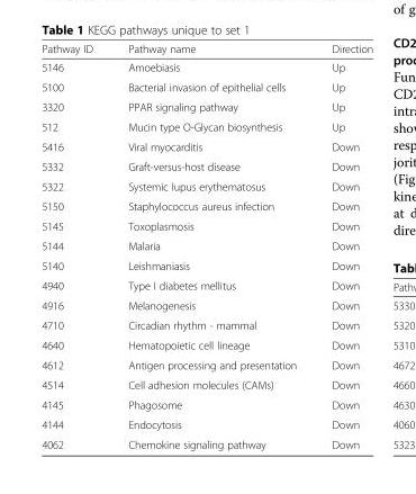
<table><thead><tr><td>Pathway ID</td><td>Pathway name</td><td>Direction</td></tr></thead><tbody><tr><td>5146</td><td>Amoebiasis</td><td>Up</td></tr><tr><td>5100</td><td>Bacterial invasion of epithelial cells</td><td>Up</td></tr><tr><td>3320</td><td>PPAR signaling pathway</td><td>Up</td></tr><tr><td>512</td><td>Mucin type O-Glycan biosynthesis</td><td>Up</td></tr><tr><td>5416</td><td>Viral myocarditis</td><td>Down</td></tr><tr><td>5332</td><td>Graft-versus-host disease</td><td>Down</td></tr><tr><td>5322</td><td>Systemic lupus erythematosus</td><td>Down</td></tr><tr><td>5150</td><td>Staphylococcus aureus infection</td><td>Down</td></tr><tr><td>5145</td><td>Toxoplasmosis</td><td>Down</td></tr><tr><td>5144</td><td>Malaria</td><td>Down</td></tr><tr><td>5140</td><td>Leishmaniasis</td><td>Down</td></tr><tr><td>4940</td><td>Type I diabetes mellitus</td><td>Down</td></tr><tr><td>4916</td><td>Melanogenesis</td><td>Down</td></tr><tr><td>4710</td><td>Circadian rhythm - mammal</td><td>Down</td></tr><tr><td>4640</td><td>Hematopoietic cell lineage</td><td>Down</td></tr><tr><td>4612</td><td>Antigen processing and presentation</td><td>Down</td></tr><tr><td>4514</td><td>Cell adhesion molecules (CAMs)</td><td>Down</td></tr><tr><td>4145</td><td>Phagosome</td><td>Down</td></tr><tr><td>4144</td><td>Endocytosis</td><td>Down</td></tr><tr><td>4062</td><td>Chemokine signaling pathway</td><td>Down</td></tr></tbody></table>